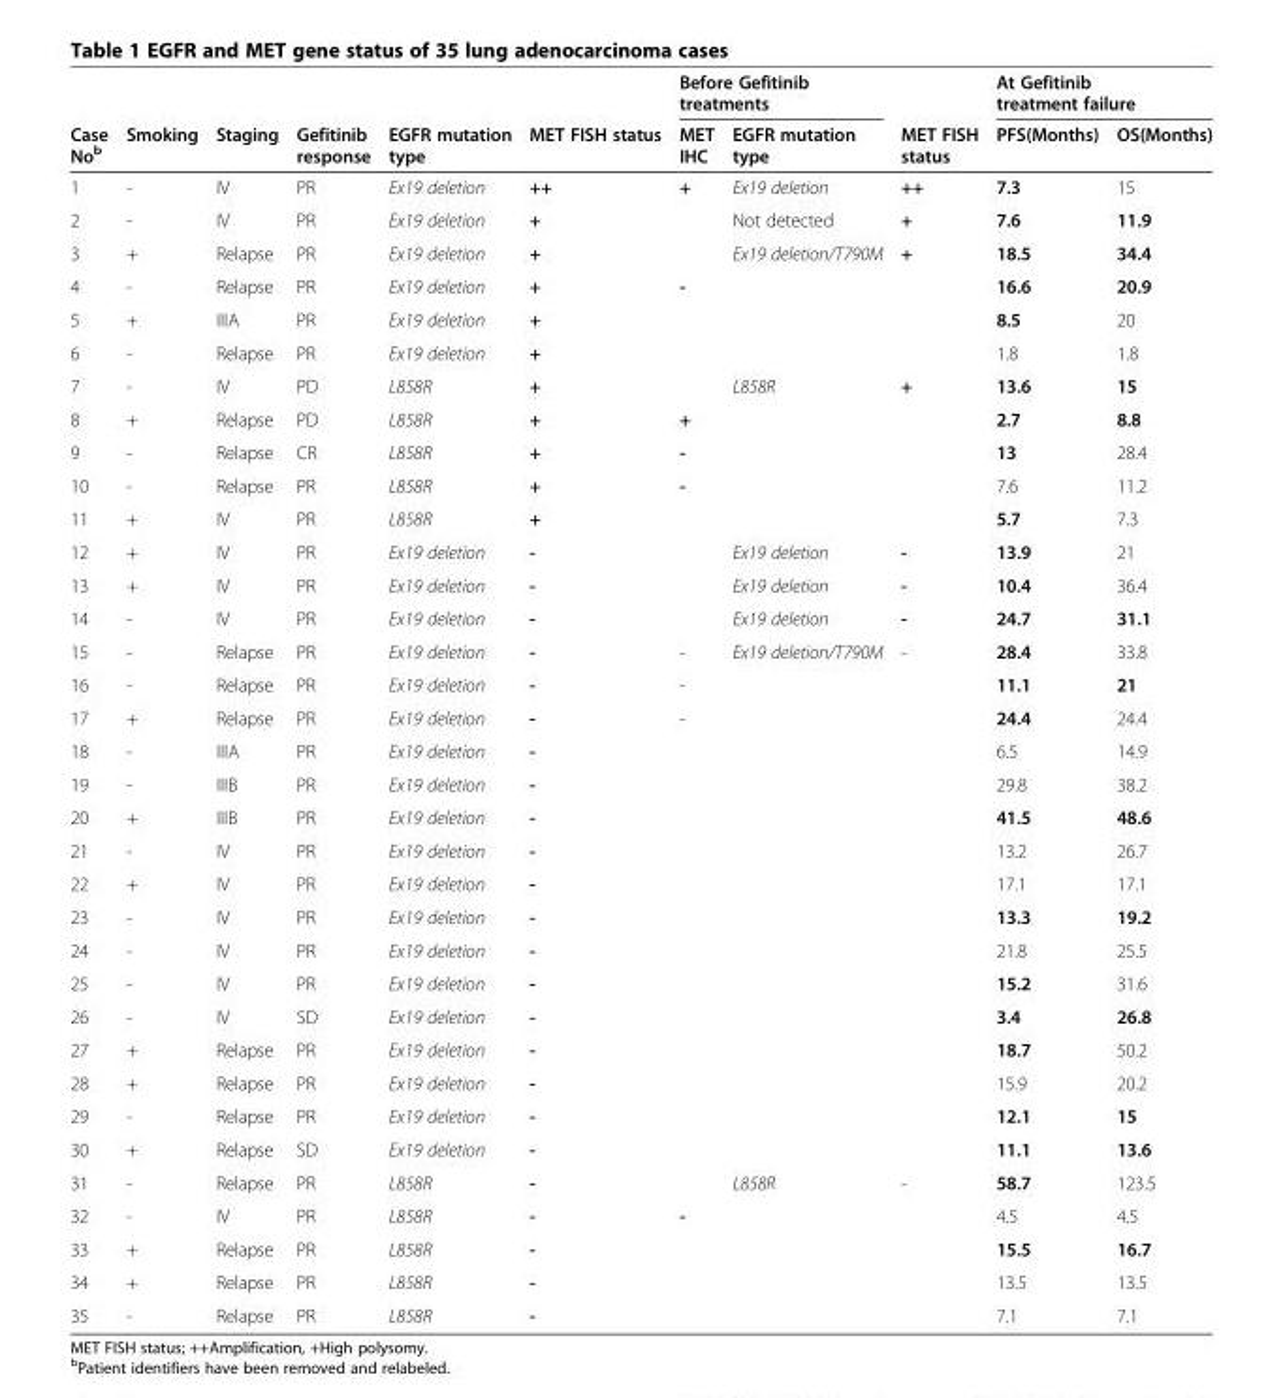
<table><thead><tr><td rowspan="2">Case No<sup>b</sup></td><td rowspan="2">Smoking</td><td rowspan="2">Staging</td><td rowspan="2">Gefitinib response</td><td rowspan="2">EGFR mutation type</td><td rowspan="2">MET FISH status</td><td colspan="2">Before Gefitinib treatments</td><td rowspan="2">MET FISH status</td><td colspan="2">At Gefitinib treatment failure</td></tr><tr><td>MET IHC</td><td>EGFR mutation type</td><td>PFS(Months)</td><td>OS(Months)</td></tr></thead><tbody><tr><td>1</td><td>-</td><td>IV</td><td>PR</td><td>Ex19 deletion</td><td>++</td><td>+</td><td>Ex19 deletion</td><td>++</td><td>7.3</td><td>15</td></tr><tr><td>2</td><td>-</td><td>IV</td><td>PR</td><td>Ex19 deletion</td><td>+</td><td></td><td>Not detected</td><td>+</td><td>7.6</td><td>11.9</td></tr><tr><td>3</td><td>+</td><td>Relapse</td><td>PR</td><td>Ex19 deletion</td><td>+</td><td></td><td>Ex19 deletion/T790M</td><td>+</td><td>18.5</td><td>34.4</td></tr><tr><td>4</td><td>-</td><td>Relapse</td><td>PR</td><td>Ex19 deletion</td><td>+</td><td>-</td><td></td><td></td><td>16.6</td><td>20.9</td></tr><tr><td>5</td><td>+</td><td>IIIA</td><td>PR</td><td>Ex19 deletion</td><td>+</td><td></td><td></td><td></td><td>8.5</td><td>20</td></tr><tr><td>6</td><td>-</td><td>Relapse</td><td>PR</td><td>Ex19 deletion</td><td>+</td><td></td><td></td><td></td><td>1.8</td><td>1.8</td></tr><tr><td>7</td><td>-</td><td>IV</td><td>PD</td><td>L858R</td><td>+</td><td></td><td>L858R</td><td>+</td><td>13.6</td><td>15</td></tr><tr><td>8</td><td>+</td><td>Relapse</td><td>PD</td><td>L858R</td><td>+</td><td>+</td><td></td><td></td><td>2.7</td><td>8.8</td></tr><tr><td>9</td><td>-</td><td>Relapse</td><td>CR</td><td>L858R</td><td>+</td><td>-</td><td></td><td></td><td>13</td><td>28.4</td></tr><tr><td>10</td><td>-</td><td>Relapse</td><td>PR</td><td>L858R</td><td>+</td><td>-</td><td></td><td></td><td>7.6</td><td>11.2</td></tr><tr><td>11</td><td>+</td><td>IV</td><td>PR</td><td>L858R</td><td>+</td><td></td><td></td><td></td><td>5.7</td><td>7.3</td></tr><tr><td>12</td><td>+</td><td>IV</td><td>PR</td><td>Ex19 deletion</td><td>-</td><td></td><td>Ex19 deletion</td><td>-</td><td>13.9</td><td>21</td></tr><tr><td>13</td><td>+</td><td>IV</td><td>PR</td><td>Ex19 deletion</td><td>-</td><td></td><td>Ex19 deletion</td><td>-</td><td>10.4</td><td>36.4</td></tr><tr><td>14</td><td>-</td><td>IV</td><td>PR</td><td>Ex19 deletion</td><td>-</td><td></td><td>Ex19 deletion</td><td>-</td><td>24.7</td><td>31.1</td></tr><tr><td>15</td><td>-</td><td>Relapse</td><td>PR</td><td>Ex19 deletion</td><td>-</td><td>-</td><td>Ex19 deletion/T790M</td><td>-</td><td>28.4</td><td>33.8</td></tr><tr><td>16</td><td>-</td><td>Relapse</td><td>PR</td><td>Ex19 deletion</td><td>-</td><td>-</td><td></td><td></td><td>11.1</td><td>21</td></tr><tr><td>17</td><td>+</td><td>Relapse</td><td>PR</td><td>Ex19 deletion</td><td>-</td><td>-</td><td></td><td></td><td>24.4</td><td>24.4</td></tr><tr><td>18</td><td>-</td><td>IIIA</td><td>PR</td><td>Ex19 deletion</td><td>-</td><td></td><td></td><td></td><td>6.5</td><td>14.9</td></tr><tr><td>19</td><td>-</td><td>IIIB</td><td>PR</td><td>Ex19 deletion</td><td>-</td><td></td><td></td><td></td><td>29.8</td><td>38.2</td></tr><tr><td>20</td><td>+</td><td>IIIB</td><td>PR</td><td>Ex19 deletion</td><td>-</td><td></td><td></td><td></td><td>41.5</td><td>48.6</td></tr><tr><td>21</td><td>-</td><td>IV</td><td>PR</td><td>Ex19 deletion</td><td>-</td><td></td><td></td><td></td><td>13.2</td><td>26.7</td></tr><tr><td>22</td><td>+</td><td>IV</td><td>PR</td><td>Ex19 deletion</td><td>-</td><td></td><td></td><td></td><td>17.1</td><td>17.1</td></tr><tr><td>23</td><td>-</td><td>IV</td><td>PR</td><td>Ex19 deletion</td><td>-</td><td></td><td></td><td></td><td>13.3</td><td>19.2</td></tr><tr><td>24</td><td>-</td><td>IV</td><td>PR</td><td>Ex19 deletion</td><td>-</td><td></td><td></td><td></td><td>21.8</td><td>25.5</td></tr><tr><td>25</td><td>-</td><td>IV</td><td>PR</td><td>Ex19 deletion</td><td>-</td><td></td><td></td><td></td><td>15.2</td><td>31.6</td></tr><tr><td>26</td><td>-</td><td>IV</td><td>SD</td><td>Ex19 deletion</td><td>-</td><td></td><td></td><td></td><td>3.4</td><td>26.8</td></tr><tr><td>27</td><td>+</td><td>Relapse</td><td>PR</td><td>Ex19 deletion</td><td>-</td><td></td><td></td><td></td><td>18.7</td><td>50.2</td></tr><tr><td>28</td><td>+</td><td>Relapse</td><td>PR</td><td>Ex19 deletion</td><td>-</td><td></td><td></td><td></td><td>15.9</td><td>20.2</td></tr><tr><td>29</td><td>-</td><td>Relapse</td><td>PR</td><td>Ex19 deletion</td><td>-</td><td></td><td></td><td></td><td>12.1</td><td>15</td></tr><tr><td>30</td><td>+</td><td>Relapse</td><td>SD</td><td>Ex19 deletion</td><td>-</td><td></td><td></td><td></td><td>11.1</td><td>13.6</td></tr><tr><td>31</td><td>-</td><td>Relapse</td><td>PR</td><td>L858R</td><td>-</td><td></td><td>L858R</td><td>-</td><td>58.7</td><td>123.5</td></tr><tr><td>32</td><td>-</td><td>IV</td><td>PR</td><td>L858R</td><td>-</td><td>-</td><td></td><td></td><td>4.5</td><td>4.5</td></tr><tr><td>33</td><td>+</td><td>Relapse</td><td>PR</td><td>L858R</td><td>-</td><td></td><td></td><td></td><td>15.5</td><td>16.7</td></tr><tr><td>34</td><td>+</td><td>Relapse</td><td>PR</td><td>L858R</td><td>-</td><td></td><td></td><td></td><td>13.5</td><td>13.5</td></tr><tr><td>35</td><td>-</td><td>Relapse</td><td>PR</td><td>L858R</td><td>-</td><td></td><td></td><td></td><td>7.1</td><td>7.1</td></tr></tbody></table>